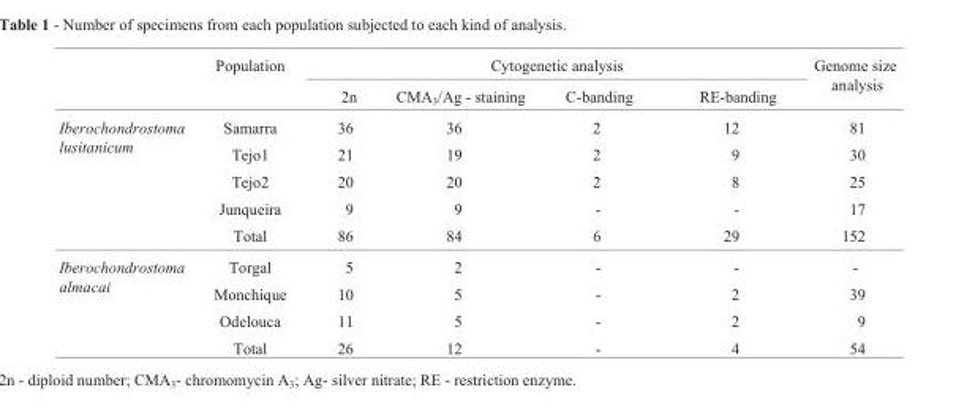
<table><thead><tr><td rowspan="2"></td><td rowspan="2">Population</td><td colspan="4">Cytogenetic analysis</td><td rowspan="2">Genome size analysis</td></tr><tr><td>2n</td><td>CMA<sub>3</sub>/Ag - staining</td><td>C-banding</td><td>RE-banding</td></tr></thead><tbody><tr><td rowspan="5">Iberochondrostoma lusitanicum</td><td>Samarra</td><td>36</td><td>36</td><td>2</td><td>12</td><td>81</td></tr><tr><td>Tejo1</td><td>21</td><td>19</td><td>2</td><td>9</td><td>30</td></tr><tr><td>Tejo2</td><td>20</td><td>20</td><td>2</td><td>8</td><td>25</td></tr><tr><td>Junqueira</td><td>9</td><td>9</td><td>-</td><td>-</td><td>17</td></tr><tr><td>Total</td><td>86</td><td>84</td><td>6</td><td>29</td><td>152</td></tr><tr><td rowspan="4">Iberochondrostoma almacai</td><td>Torgal</td><td>5</td><td>2</td><td>-</td><td>-</td><td>-</td></tr><tr><td>Monchique</td><td>10</td><td>5</td><td>-</td><td>2</td><td>39</td></tr><tr><td>Odelouca</td><td>11</td><td>5</td><td>-</td><td>2</td><td>9</td></tr><tr><td>Total</td><td>26</td><td>12</td><td>-</td><td>4</td><td>54</td></tr></tbody></table>